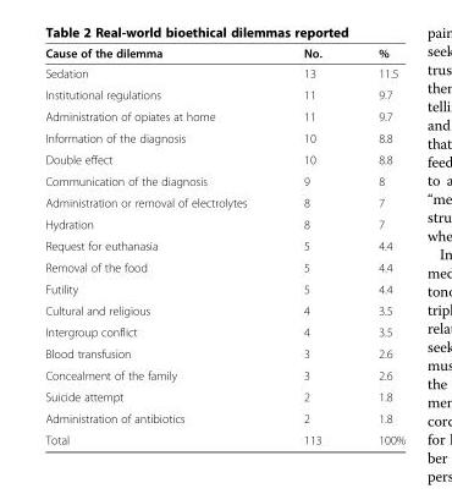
<table><thead><tr><td>Cause of the dilemma</td><td>No.</td><td>%</td></tr></thead><tbody><tr><td>Sedation</td><td>13</td><td>11.5</td></tr><tr><td>Institutional regulations</td><td>11</td><td>9.7</td></tr><tr><td>Administration of opiates at home</td><td>11</td><td>9.7</td></tr><tr><td>Information of the diagnosis</td><td>10</td><td>8.8</td></tr><tr><td>Double effect</td><td>10</td><td>8.8</td></tr><tr><td>Communication of the diagnosis</td><td>9</td><td>8</td></tr><tr><td>Administration or removal of electrolytes</td><td>8</td><td>7</td></tr><tr><td>Hydration</td><td>8</td><td>7</td></tr><tr><td>Request for euthanasia</td><td>5</td><td>4.4</td></tr><tr><td>Removal of the food</td><td>5</td><td>4.4</td></tr><tr><td>Futility</td><td>5</td><td>4.4</td></tr><tr><td>Cultural and religious</td><td>4</td><td>3.5</td></tr><tr><td>Intergroup conflict</td><td>4</td><td>3.5</td></tr><tr><td>Blood transfusion</td><td>3</td><td>2.6</td></tr><tr><td>Concealment of the family</td><td>3</td><td>2.6</td></tr><tr><td>Suicide attempt</td><td>2</td><td>1.8</td></tr><tr><td>Administration of antibiotics</td><td>2</td><td>1.8</td></tr><tr><td>Total</td><td>113</td><td>100%</td></tr></tbody></table>